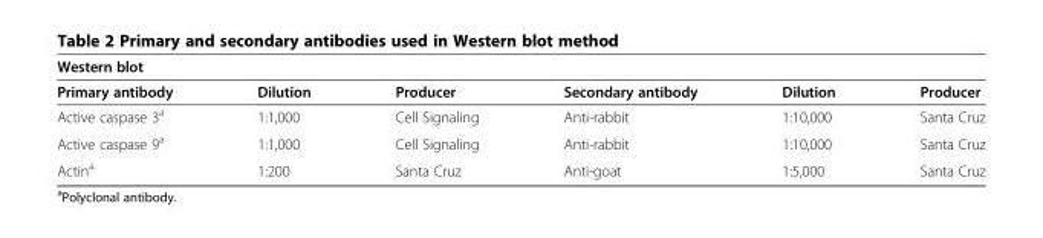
<table><thead><tr><td colspan="6">Western blot</td></tr><tr><td>Primary antibody</td><td>Dilution</td><td>Producer</td><td>Secondary antibody</td><td>Dilution</td><td>Producer</td></tr></thead><tbody><tr><td>Active caspase 3<sup>a</sup></td><td>1:1,000</td><td>Cell Signaling</td><td>Anti-rabbit</td><td>1:10,000</td><td>Santa Cruz</td></tr><tr><td>Active caspase 9<sup>a</sup></td><td>1:1,000</td><td>Cell Signaling</td><td>Anti-rabbit</td><td>1:10,000</td><td>Santa Cruz</td></tr><tr><td>Actin<sup>a</sup></td><td>1:200</td><td>Santa Cruz</td><td>Anti-goat</td><td>1:5,000</td><td>Santa Cruz</td></tr></tbody></table>